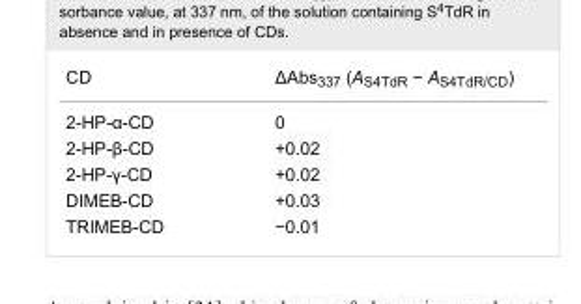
<table><tbody><tr><td>CD</td><td>ΔAbs<sub>337</sub> (A<sub>S4TdR</sub> − A<sub>S4TdR/CD</sub>)</td></tr><tr><td>2-HP-α-CD</td><td>0</td></tr><tr><td>2-HP-β-CD</td><td>+0.02</td></tr><tr><td>2-HP-γ-CD</td><td>+0.02</td></tr><tr><td>DIMEB-CD</td><td>+0.03</td></tr><tr><td>TRIMEB-CD</td><td>−0.01</td></tr></tbody></table>